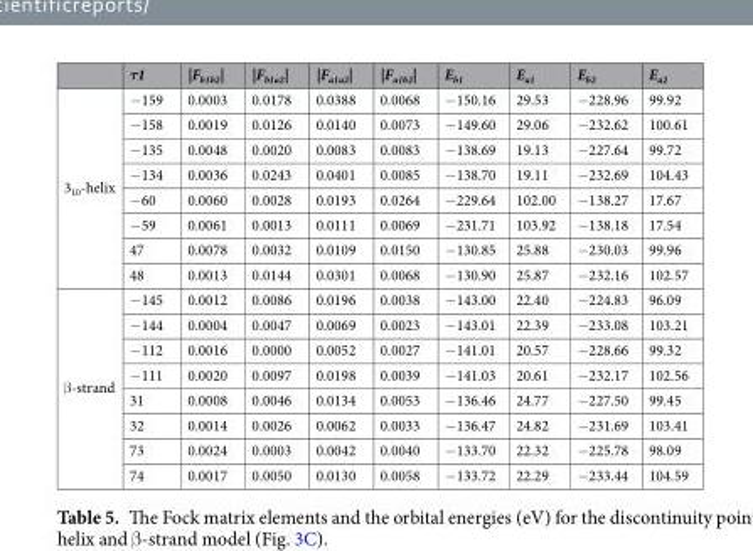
<table><thead><tr><td></td><td>τ1</td><td>|F<sub>b1b2</sub>|</td><td>|F<sub>b1a2</sub>|</td><td>|F<sub>a1a2</sub>|</td><td>|F<sub>a1b2</sub>|</td><td>E<sub>b1</sub></td><td>E<sub>a1</sub></td><td>E<sub>b2</sub></td><td>E<sub>a2</sub></td></tr></thead><tbody><tr><td rowspan="8">3<sub>10</sub>-helix</td><td>−159</td><td>0.0003</td><td>0.0178</td><td>0.0388</td><td>0.0068</td><td>−150.16</td><td>29.53</td><td>−228.96</td><td>99.92</td></tr><tr><td>−158</td><td>0.0019</td><td>0.0126</td><td>0.0140</td><td>0.0073</td><td>−149.60</td><td>29.06</td><td>−232.62</td><td>100.61</td></tr><tr><td>−135</td><td>0.0048</td><td>0.0020</td><td>0.0083</td><td>0.0083</td><td>−138.69</td><td>19.13</td><td>−227.64</td><td>99.72</td></tr><tr><td>−134</td><td>0.0036</td><td>0.0243</td><td>0.0401</td><td>0.0085</td><td>−138.70</td><td>19.11</td><td>−232.69</td><td>104.43</td></tr><tr><td>−60</td><td>0.0060</td><td>0.0028</td><td>0.0193</td><td>0.0264</td><td>−229.64</td><td>102.00</td><td>−138.27</td><td>17.67</td></tr><tr><td>−59</td><td>0.0061</td><td>0.0013</td><td>0.0111</td><td>0.0069</td><td>−231.71</td><td>103.92</td><td>−138.18</td><td>17.54</td></tr><tr><td>47</td><td>0.0078</td><td>0.0032</td><td>0.0109</td><td>0.0150</td><td>−130.85</td><td>25.88</td><td>−230.03</td><td>99.96</td></tr><tr><td>48</td><td>0.0013</td><td>0.0144</td><td>0.0301</td><td>0.0068</td><td>−130.90</td><td>25.87</td><td>−232.16</td><td>102.57</td></tr><tr><td rowspan="8">β-strand</td><td>−145</td><td>0.0012</td><td>0.0086</td><td>0.0196</td><td>0.0038</td><td>−143.00</td><td>22.40</td><td>−224.83</td><td>96.09</td></tr><tr><td>−144</td><td>0.0004</td><td>0.0047</td><td>0.0069</td><td>0.0023</td><td>−143.01</td><td>22.39</td><td>−233.08</td><td>103.21</td></tr><tr><td>−112</td><td>0.0016</td><td>0.0000</td><td>0.0052</td><td>0.0027</td><td>−141.01</td><td>20.57</td><td>−228.66</td><td>99.32</td></tr><tr><td>−111</td><td>0.0020</td><td>0.0097</td><td>0.0198</td><td>0.0039</td><td>−141.03</td><td>20.61</td><td>−232.17</td><td>102.56</td></tr><tr><td>31</td><td>0.0008</td><td>0.0046</td><td>0.0134</td><td>0.0053</td><td>−136.46</td><td>24.77</td><td>−227.50</td><td>99.45</td></tr><tr><td>32</td><td>0.0014</td><td>0.0026</td><td>0.0062</td><td>0.0033</td><td>−136.47</td><td>24.82</td><td>−231.69</td><td>103.41</td></tr><tr><td>73</td><td>0.0024</td><td>0.0003</td><td>0.0042</td><td>0.0040</td><td>−133.70</td><td>22.32</td><td>−225.78</td><td>98.09</td></tr><tr><td>74</td><td>0.0017</td><td>0.0050</td><td>0.0130</td><td>0.0058</td><td>−133.72</td><td>22.29</td><td>−233.44</td><td>104.59</td></tr></tbody></table>